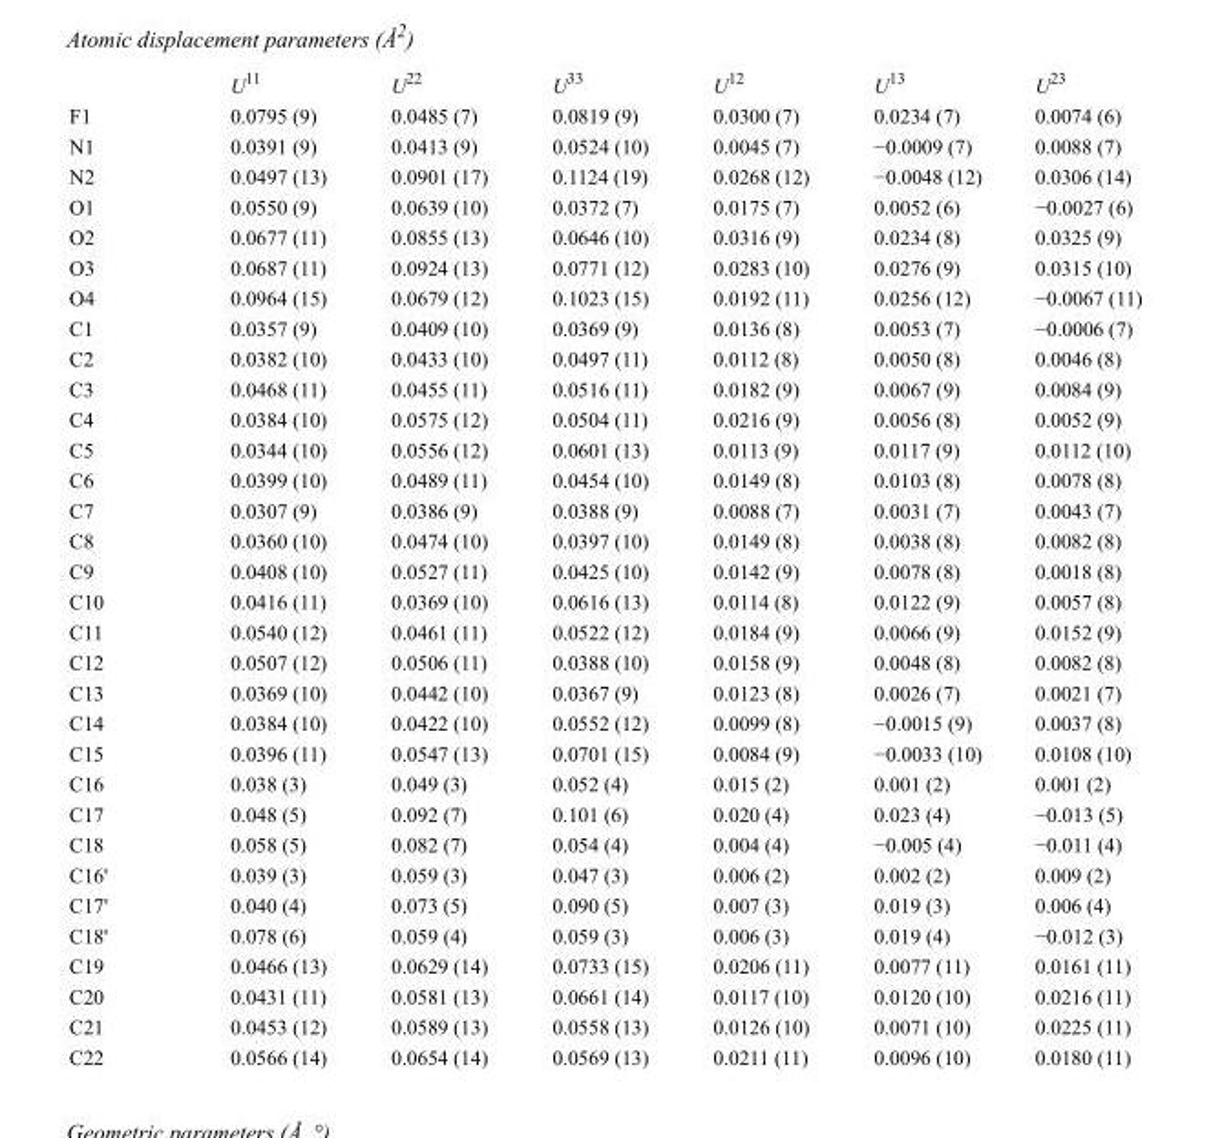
<table><thead><tr><td></td><td>U<sup>11</sup></td><td>U<sup>22</sup></td><td>U<sup>33</sup></td><td>U<sup>12</sup></td><td>U<sup>13</sup></td><td>U<sup>23</sup></td></tr></thead><tbody><tr><td>F1</td><td>0.0795 (9)</td><td>0.0485 (7)</td><td>0.0819 (9)</td><td>0.0300 (7)</td><td>0.0234 (7)</td><td>0.0074 (6)</td></tr><tr><td>N1</td><td>0.0391 (9)</td><td>0.0413 (9)</td><td>0.0524 (10)</td><td>0.0045 (7)</td><td>−0.0009 (7)</td><td>0.0088 (7)</td></tr><tr><td>N2</td><td>0.0497 (13)</td><td>0.0901 (17)</td><td>0.1124 (19)</td><td>0.0268 (12)</td><td>−0.0048 (12)</td><td>0.0306 (14)</td></tr><tr><td>O1</td><td>0.0550 (9)</td><td>0.0639 (10)</td><td>0.0372 (7)</td><td>0.0175 (7)</td><td>0.0052 (6)</td><td>−0.0027 (6)</td></tr><tr><td>O2</td><td>0.0677 (11)</td><td>0.0855 (13)</td><td>0.0646 (10)</td><td>0.0316 (9)</td><td>0.0234 (8)</td><td>0.0325 (9)</td></tr><tr><td>O3</td><td>0.0687 (11)</td><td>0.0924 (13)</td><td>0.0771 (12)</td><td>0.0283 (10)</td><td>0.0276 (9)</td><td>0.0315 (10)</td></tr><tr><td>O4</td><td>0.0964 (15)</td><td>0.0679 (12)</td><td>0.1023 (15)</td><td>0.0192 (11)</td><td>0.0256 (12)</td><td>−0.0067 (11)</td></tr><tr><td>C1</td><td>0.0357 (9)</td><td>0.0409 (10)</td><td>0.0369 (9)</td><td>0.0136 (8)</td><td>0.0053 (7)</td><td>−0.0006 (7)</td></tr><tr><td>C2</td><td>0.0382 (10)</td><td>0.0433 (10)</td><td>0.0497 (11)</td><td>0.0112 (8)</td><td>0.0050 (8)</td><td>0.0046 (8)</td></tr><tr><td>C3</td><td>0.0468 (11)</td><td>0.0455 (11)</td><td>0.0516 (11)</td><td>0.0182 (9)</td><td>0.0067 (9)</td><td>0.0084 (9)</td></tr><tr><td>C4</td><td>0.0384 (10)</td><td>0.0575 (12)</td><td>0.0504 (11)</td><td>0.0216 (9)</td><td>0.0056 (8)</td><td>0.0052 (9)</td></tr><tr><td>C5</td><td>0.0344 (10)</td><td>0.0556 (12)</td><td>0.0601 (13)</td><td>0.0113 (9)</td><td>0.0117 (9)</td><td>0.0112 (10)</td></tr><tr><td>C6</td><td>0.0399 (10)</td><td>0.0489 (11)</td><td>0.0454 (10)</td><td>0.0149 (8)</td><td>0.0103 (8)</td><td>0.0078 (8)</td></tr><tr><td>C7</td><td>0.0307 (9)</td><td>0.0386 (9)</td><td>0.0388 (9)</td><td>0.0088 (7)</td><td>0.0031 (7)</td><td>0.0043 (7)</td></tr><tr><td>C8</td><td>0.0360 (10)</td><td>0.0474 (10)</td><td>0.0397 (10)</td><td>0.0149 (8)</td><td>0.0038 (8)</td><td>0.0082 (8)</td></tr><tr><td>C9</td><td>0.0408 (10)</td><td>0.0527 (11)</td><td>0.0425 (10)</td><td>0.0142 (9)</td><td>0.0078 (8)</td><td>0.0018 (8)</td></tr><tr><td>C10</td><td>0.0416 (11)</td><td>0.0369 (10)</td><td>0.0616 (13)</td><td>0.0114 (8)</td><td>0.0122 (9)</td><td>0.0057 (8)</td></tr><tr><td>C11</td><td>0.0540 (12)</td><td>0.0461 (11)</td><td>0.0522 (12)</td><td>0.0184 (9)</td><td>0.0066 (9)</td><td>0.0152 (9)</td></tr><tr><td>C12</td><td>0.0507 (12)</td><td>0.0506 (11)</td><td>0.0388 (10)</td><td>0.0158 (9)</td><td>0.0048 (8)</td><td>0.0082 (8)</td></tr><tr><td>C13</td><td>0.0369 (10)</td><td>0.0442 (10)</td><td>0.0367 (9)</td><td>0.0123 (8)</td><td>0.0026 (7)</td><td>0.0021 (7)</td></tr><tr><td>C14</td><td>0.0384 (10)</td><td>0.0422 (10)</td><td>0.0552 (12)</td><td>0.0099 (8)</td><td>−0.0015 (9)</td><td>0.0037 (8)</td></tr><tr><td>C15</td><td>0.0396 (11)</td><td>0.0547 (13)</td><td>0.0701 (15)</td><td>0.0084 (9)</td><td>−0.0033 (10)</td><td>0.0108 (10)</td></tr><tr><td>C16</td><td>0.038 (3)</td><td>0.049 (3)</td><td>0.052 (4)</td><td>0.015 (2)</td><td>0.001 (2)</td><td>0.001 (2)</td></tr><tr><td>C17</td><td>0.048 (5)</td><td>0.092 (7)</td><td>0.101 (6)</td><td>0.020 (4)</td><td>0.023 (4)</td><td>−0.013 (5)</td></tr><tr><td>C18</td><td>0.058 (5)</td><td>0.082 (7)</td><td>0.054 (4)</td><td>0.004 (4)</td><td>−0.005 (4)</td><td>−0.011 (4)</td></tr><tr><td>C16&#x27;</td><td>0.039 (3)</td><td>0.059 (3)</td><td>0.047 (3)</td><td>0.006 (2)</td><td>0.002 (2)</td><td>0.009 (2)</td></tr><tr><td>C17&#x27;</td><td>0.040 (4)</td><td>0.073 (5)</td><td>0.090 (5)</td><td>0.007 (3)</td><td>0.019 (3)</td><td>0.006 (4)</td></tr><tr><td>C18&#x27;</td><td>0.078 (6)</td><td>0.059 (4)</td><td>0.059 (3)</td><td>0.006 (3)</td><td>0.019 (4)</td><td>−0.012 (3)</td></tr><tr><td>C19</td><td>0.0466 (13)</td><td>0.0629 (14)</td><td>0.0733 (15)</td><td>0.0206 (11)</td><td>0.0077 (11)</td><td>0.0161 (11)</td></tr><tr><td>C20</td><td>0.0431 (11)</td><td>0.0581 (13)</td><td>0.0661 (14)</td><td>0.0117 (10)</td><td>0.0120 (10)</td><td>0.0216 (11)</td></tr><tr><td>C21</td><td>0.0453 (12)</td><td>0.0589 (13)</td><td>0.0558 (13)</td><td>0.0126 (10)</td><td>0.0071 (10)</td><td>0.0225 (11)</td></tr><tr><td>C22</td><td>0.0566 (14)</td><td>0.0654 (14)</td><td>0.0569 (13)</td><td>0.0211 (11)</td><td>0.0096 (10)</td><td>0.0180 (11)</td></tr></tbody></table>